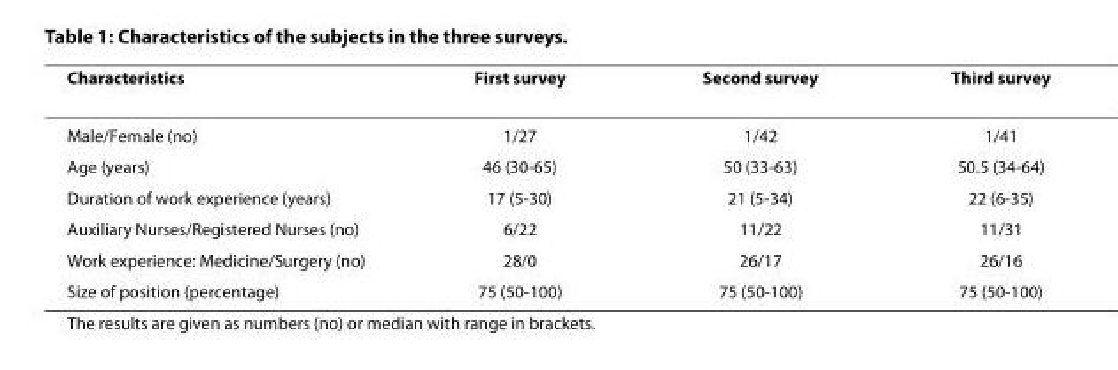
<table><thead><tr><td>Characteristics</td><td>First survey</td><td>Second survey</td><td>Third survey</td></tr></thead><tbody><tr><td>Male/Female (no)</td><td>1/27</td><td>1/42</td><td>1/41</td></tr><tr><td>Age (years)</td><td>46 (30-65)</td><td>50 (33-63)</td><td>50.5 (34-64)</td></tr><tr><td>Duration of work experience (years)</td><td>17 (5-30)</td><td>21 (5-34)</td><td>22 (6-35)</td></tr><tr><td>Auxiliary Nurses/Registered Nurses (no)</td><td>6/22</td><td>11/22</td><td>11/31</td></tr><tr><td>Work experience: Medicine/Surgery (no)</td><td>28/0</td><td>26/17</td><td>26/16</td></tr><tr><td>Size of position (percentage)</td><td>75 (50-100)</td><td>75 (50-100)</td><td>75 (50-100)</td></tr></tbody></table>